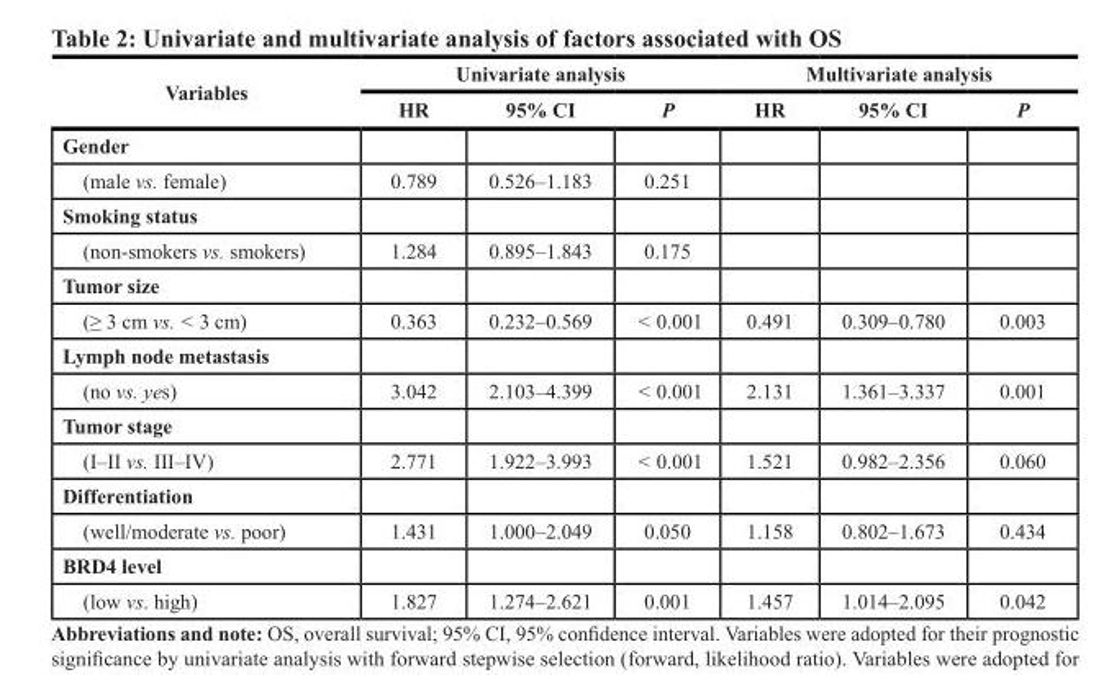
<table><thead><tr><td rowspan="2">Variables</td><td colspan="3">Univariate analysis</td><td colspan="3">Multivariate analysis</td></tr><tr><td>HR</td><td>95% CI</td><td>P</td><td>HR</td><td>95% CI</td><td>P</td></tr></thead><tbody><tr><td colspan="7">Gender</td></tr><tr><td>(male vs. female)</td><td>0.789</td><td>0.526–1.183</td><td>0.251</td><td></td><td></td><td></td></tr><tr><td colspan="7">Smoking status</td></tr><tr><td>(non-smokers vs. smokers)</td><td>1.284</td><td>0.895–1.843</td><td>0.175</td><td></td><td></td><td></td></tr><tr><td colspan="7">Tumor size</td></tr><tr><td>(≥ 3 cm vs. &lt; 3 cm)</td><td>0.363</td><td>0.232–0.569</td><td>&lt; 0.001</td><td>0.491</td><td>0.309–0.780</td><td>0.003</td></tr><tr><td colspan="7">Lymph node metastasis</td></tr><tr><td>(no vs. yes)</td><td>3.042</td><td>2.103–4.399</td><td>&lt; 0.001</td><td>2.131</td><td>1.361–3.337</td><td>0.001</td></tr><tr><td colspan="7">Tumor stage</td></tr><tr><td>(I–II vs. III–IV)</td><td>2.771</td><td>1.922–3.993</td><td>&lt; 0.001</td><td>1.521</td><td>0.982–2.356</td><td>0.060</td></tr><tr><td colspan="7">Differentiation</td></tr><tr><td>(well/moderate vs. poor)</td><td>1.431</td><td>1.000–2.049</td><td>0.050</td><td>1.158</td><td>0.802–1.673</td><td>0.434</td></tr><tr><td colspan="7">BRD4 level</td></tr><tr><td>(low vs. high)</td><td>1.827</td><td>1.274–2.621</td><td>0.001</td><td>1.457</td><td>1.014–2.095</td><td>0.042</td></tr></tbody></table>